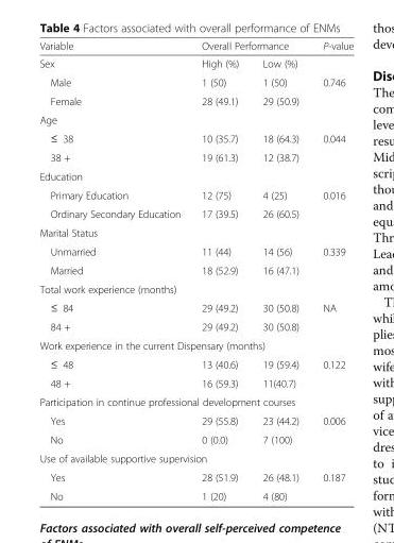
<table><thead><tr><td rowspan="2">Variable Sex</td><td colspan="2">Overall Performance</td><td rowspan="2">P-value</td></tr><tr><td>High (%)</td><td>Low (%)</td></tr></thead><tbody><tr><td>Male</td><td>1 (50)</td><td>1 (50)</td><td>0.746</td></tr><tr><td>Female</td><td>28 (49.1)</td><td>29 (50.9)</td><td></td></tr><tr><td colspan="4">Age</td></tr><tr><td>≤ 38</td><td>10 (35.7)</td><td>18 (64.3)</td><td>0.044</td></tr><tr><td>38 +</td><td>19 (61.3)</td><td>12 (38.7)</td><td></td></tr><tr><td colspan="4">Education</td></tr><tr><td>Primary Education</td><td>12 (75)</td><td>4 (25)</td><td>0.016</td></tr><tr><td>Ordinary Secondary Education</td><td>17 (39.5)</td><td>26 (60.5)</td><td></td></tr><tr><td colspan="4">Marital Status</td></tr><tr><td>Unmarried</td><td>11 (44)</td><td>14 (56)</td><td>0.339</td></tr><tr><td>Married</td><td>18 (52.9)</td><td>16 (47.1)</td><td></td></tr><tr><td colspan="4">Total work experience (months)</td></tr><tr><td>≤ 84</td><td>29 (49.2)</td><td>30 (50.8)</td><td>NA</td></tr><tr><td>84 +</td><td>29 (49.2)</td><td>30 (50.8)</td><td></td></tr><tr><td colspan="4">Work experience in the current Dispensary (months)</td></tr><tr><td>≤ 48</td><td>13 (40.6)</td><td>19 (59.4)</td><td>0.122</td></tr><tr><td>48 +</td><td>16 (59.3)</td><td>11(40.7)</td><td></td></tr><tr><td colspan="4">Participation in continue professional development courses</td></tr><tr><td>Yes</td><td>29 (55.8)</td><td>23 (44.2)</td><td>0.006</td></tr><tr><td>No</td><td>0 (0.0)</td><td>7 (100)</td><td></td></tr><tr><td colspan="4">Use of available supportive supervision</td></tr><tr><td>Yes</td><td>28 (51.9)</td><td>26 (48.1)</td><td>0.187</td></tr><tr><td>No</td><td>1 (20)</td><td>4 (80)</td><td></td></tr></tbody></table>